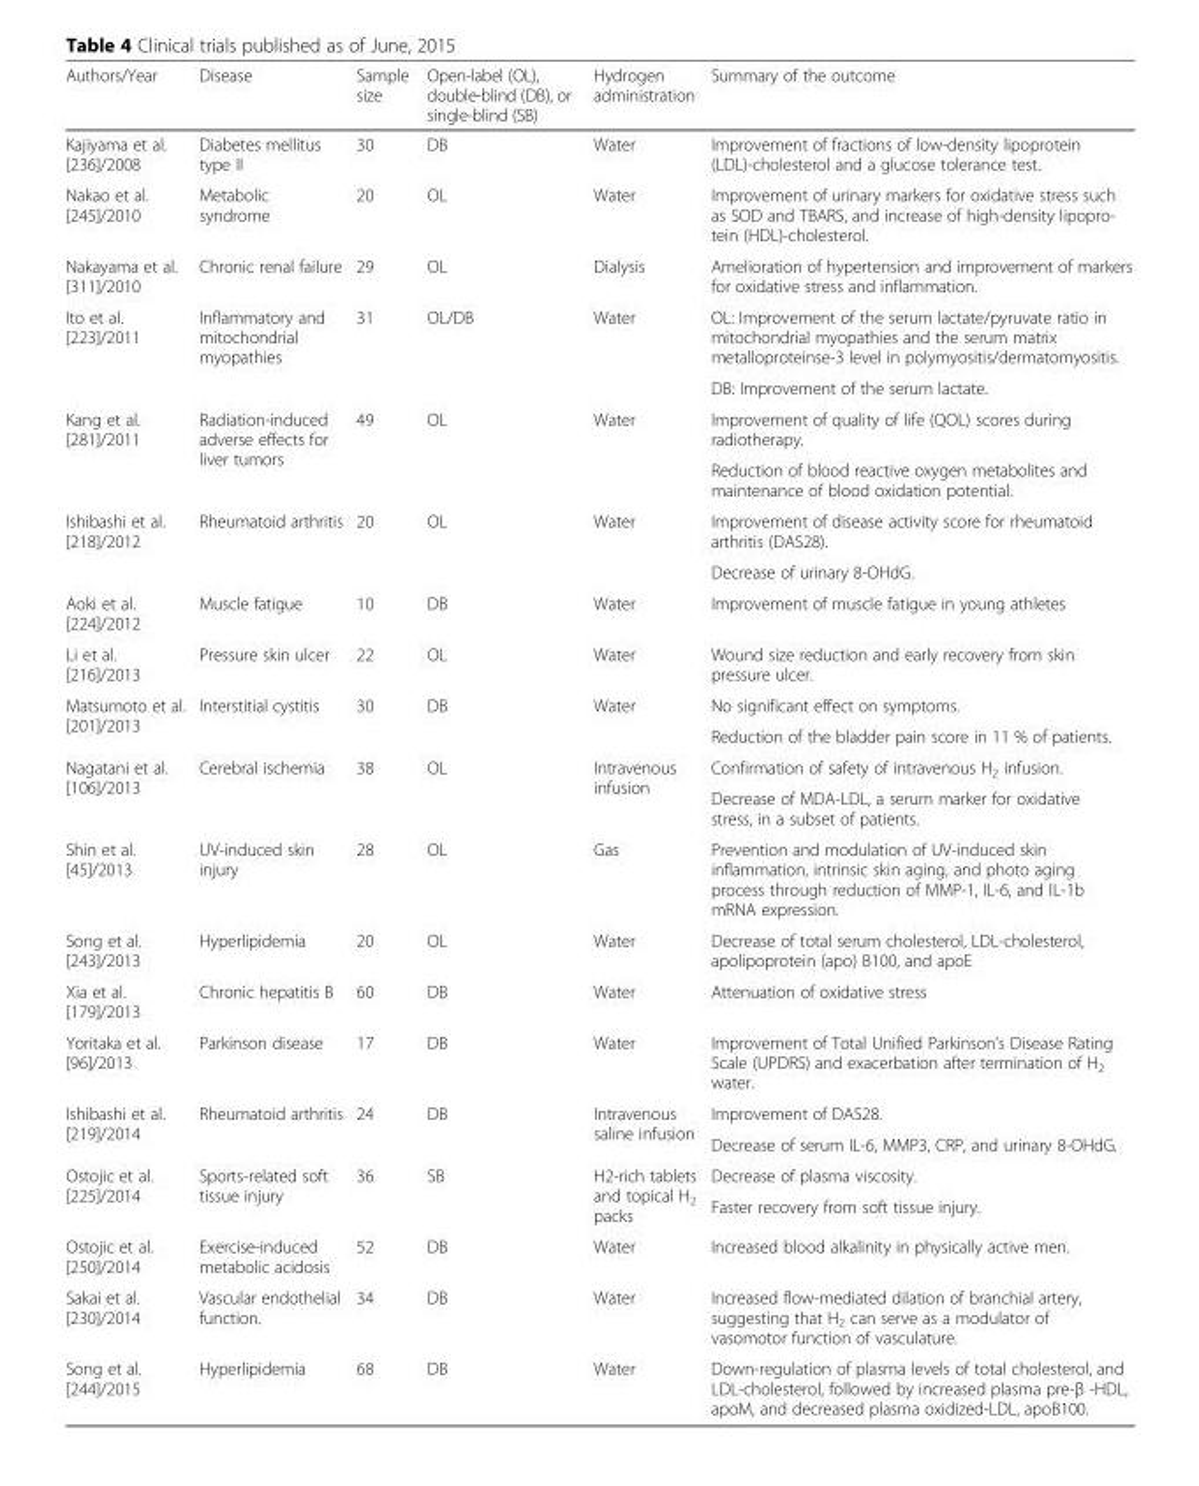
<table><thead><tr><td>Authors/Year</td><td>Disease</td><td>Sample size</td><td>Open-label (OL), double-blind (DB), or single-blind (SB)</td><td>Hydrogen administration</td><td>Summary of the outcome</td></tr></thead><tbody><tr><td>Kajiyama et al. [236]/2008</td><td>Diabetes mellitus type II</td><td>30</td><td>DB</td><td>Water</td><td>Improvement of fractions of low-density lipoprotein (LDL)-cholesterol and a glucose tolerance test.</td></tr><tr><td>Nakao et al. [245]/2010</td><td>Metabolic syndrome</td><td>20</td><td>OL</td><td>Water</td><td>Improvement of urinary markers for oxidative stress such as SOD and TBARS, and increase of high-density lipopro- tein (HDL)-cholesterol.</td></tr><tr><td>Nakayama et al. [311]/2010</td><td>Chronic renal failure</td><td>29</td><td>OL</td><td>Dialysis</td><td>Amelioration of hypertension and improvement of markers for oxidative stress and inflammation.</td></tr><tr><td rowspan="2">Ito et al. [223]/2011</td><td rowspan="2">Inflammatory and mitochondrial myopathies</td><td rowspan="2">31</td><td rowspan="2">OL/DB</td><td rowspan="2">Water</td><td>OL: Improvement of the serum lactate/pyruvate ratio in mitochondrial myopathies and the serum matrix metalloproteinse-3 level in polymyositis/dermatomyositis.</td></tr><tr><td>DB: Improvement of the serum lactate.</td></tr><tr><td rowspan="2">Kang et al. [281]/2011</td><td rowspan="2">Radiation-induced adverse effects for liver tumors</td><td rowspan="2">49</td><td rowspan="2">OL</td><td rowspan="2">Water</td><td>Improvement of quality of life (QOL) scores during radiotherapy.</td></tr><tr><td>Reduction of blood reactive oxygen metabolites and maintenance of blood oxidation potential.</td></tr><tr><td rowspan="2">Ishibashi et al. [218]/2012</td><td rowspan="2">Rheumatoid arthritis</td><td rowspan="2">20</td><td rowspan="2">OL</td><td rowspan="2">Water</td><td>Improvement of disease activity score for rheumatoid arthritis (DAS28).</td></tr><tr><td>Decrease of urinary 8-OHdG.</td></tr><tr><td>Aoki et al. [224]/2012</td><td>Muscle fatigue</td><td>10</td><td>DB</td><td>Water</td><td>Improvement of muscle fatigue in young athletes</td></tr><tr><td>Li et al. [216]/2013</td><td>Pressure skin ulcer</td><td>22</td><td>OL</td><td>Water</td><td>Wound size reduction and early recovery from skin pressure ulcer.</td></tr><tr><td rowspan="2">Matsumoto et al. [201]/2013</td><td rowspan="2">Interstitial cystitis</td><td rowspan="2">30</td><td rowspan="2">DB</td><td rowspan="2">Water</td><td>No significant effect on symptoms.</td></tr><tr><td>Reduction of the bladder pain score in 11 % of patients.</td></tr><tr><td rowspan="2">Nagatani et al. [106]/2013</td><td rowspan="2">Cerebral ischemia</td><td rowspan="2">38</td><td rowspan="2">OL</td><td rowspan="2">Intravenous infusion</td><td>Confirmation of safety of intravenous H<sub>2</sub> infusion.</td></tr><tr><td>Decrease of MDA-LDL, a serum marker for oxidative stress, in a subset of patients.</td></tr><tr><td>Shin et al. [45]/2013</td><td>UV-induced skin injury</td><td>28</td><td>OL</td><td>Gas</td><td>Prevention and modulation of UV-induced skin inflammation, intrinsic skin aging, and photo aging process through reduction of MMP-1, IL-6, and IL-1b mRNA expression.</td></tr><tr><td>Song et al. [243]/2013</td><td>Hyperlipidemia</td><td>20</td><td>OL</td><td>Water</td><td>Decrease of total serum cholesterol, LDL-cholesterol, apolipoprotein (apo) B100, and apoE</td></tr><tr><td>Xia et al. [179]/2013</td><td>Chronic hepatitis B</td><td>60</td><td>DB</td><td>Water</td><td>Attenuation of oxidative stress</td></tr><tr><td>Yoritaka et al. [96]/2013</td><td>Parkinson disease</td><td>17</td><td>DB</td><td>Water</td><td>Improvement of Total Unified Parkinson’s Disease Rating Scale (UPDRS) and exacerbation after termination of H<sub>2</sub> water.</td></tr><tr><td rowspan="2">Ishibashi et al. [219]/2014</td><td rowspan="2">Rheumatoid arthritis</td><td rowspan="2">24</td><td rowspan="2">DB</td><td rowspan="2">Intravenous saline infusion</td><td>Improvement of DAS28.</td></tr><tr><td>Decrease of serum IL-6, MMP3, CRP, and urinary 8-OHdG.</td></tr><tr><td rowspan="2">Ostojic et al. [225]/2014</td><td rowspan="2">Sports-related soft tissue injury</td><td rowspan="2">36</td><td rowspan="2">SB</td><td rowspan="2">H2-rich tablets and topical H<sub>2</sub> packs</td><td>Decrease of plasma viscosity.</td></tr><tr><td>Faster recovery from soft tissue injury.</td></tr><tr><td>Ostojic et al. [250]/2014</td><td>Exercise-induced metabolic acidosis</td><td>52</td><td>DB</td><td>Water</td><td>Increased blood alkalinity in physically active men.</td></tr><tr><td>Sakai et al. [230]/2014</td><td>Vascular endothelial function.</td><td>34</td><td>DB</td><td>Water</td><td>Increased flow-mediated dilation of branchial artery, suggesting that H<sub>2</sub> can serve as a modulator of vasomotor function of vasculature.</td></tr><tr><td>Song et al. [244]/2015</td><td>Hyperlipidemia</td><td>68</td><td>DB</td><td>Water</td><td>Down-regulation of plasma levels of total cholesterol, and LDL-cholesterol, followed by increased plasma pre-β -HDL, apoM, and decreased plasma oxidized-LDL, apoB100.</td></tr></tbody></table>